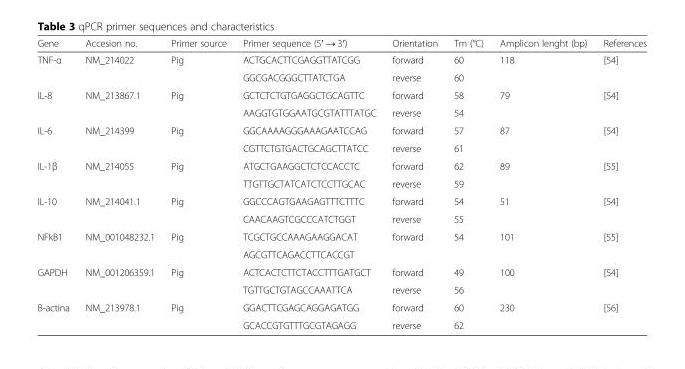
<table><thead><tr><td>Gene</td><td>Accesion no.</td><td>Primer source</td><td>Primer sequence (5′ → 3′)</td><td>Orientation</td><td>Tm (°C)</td><td>Amplicon lenght (bp)</td><td>References</td></tr></thead><tbody><tr><td rowspan="2">TNF-α</td><td rowspan="2">NM_214022</td><td rowspan="2">Pig</td><td>ACTGCACTTCGAGGTTATCGG</td><td>forward</td><td>60</td><td rowspan="2">118</td><td rowspan="2">[54]</td></tr><tr><td>GGCGACGGGCTTATCTGA</td><td>reverse</td><td>60</td></tr><tr><td rowspan="2">IL-8</td><td rowspan="2">NM_213867.1</td><td rowspan="2">Pig</td><td>GCTCTCTGTGAGGCTGCAGTTC</td><td>forward</td><td>58</td><td rowspan="2">79</td><td rowspan="2">[54]</td></tr><tr><td>AAGGTGTGGAATGCGTATTTATGC</td><td>reverse</td><td>54</td></tr><tr><td rowspan="2">IL-6</td><td rowspan="2">NM_214399</td><td rowspan="2">Pig</td><td>GGCAAAAGGGAAAGAATCCAG</td><td>forward</td><td>57</td><td rowspan="2">87</td><td rowspan="2">[54]</td></tr><tr><td>CGTTCTGTGACTGCAGCTTATCC</td><td>reverse</td><td>61</td></tr><tr><td rowspan="2">IL-1β</td><td rowspan="2">NM_214055</td><td rowspan="2">Pig</td><td>ATGCTGAAGGCTCTCCACCTC</td><td>forward</td><td>62</td><td rowspan="2">89</td><td rowspan="2">[55]</td></tr><tr><td>TTGTTGCTATCATCTCCTTGCAC</td><td>reverse</td><td>59</td></tr><tr><td rowspan="2">IL-10</td><td rowspan="2">NM_214041.1</td><td rowspan="2">Pig</td><td>GGCCCAGTGAAGAGTTTCTTTC</td><td>forward</td><td>54</td><td rowspan="2">51</td><td rowspan="2">[54]</td></tr><tr><td>CAACAAGTCGCCCATCTGGT</td><td>reverse</td><td>55</td></tr><tr><td rowspan="2">NFkB1</td><td rowspan="2">NM_001048232.1</td><td rowspan="2">Pig</td><td>TCGCTGCCAAAGAAGGACAT</td><td>forward</td><td>54</td><td rowspan="2">101</td><td rowspan="2">[55]</td></tr><tr><td>AGCGTTCAGACCTTCACCGT</td><td></td><td></td></tr><tr><td rowspan="2">GAPDH</td><td rowspan="2">NM_001206359.1</td><td rowspan="2">Pig</td><td>ACTCACTCTTCTACCTTTGATGCT</td><td>forward</td><td>49</td><td rowspan="2">100</td><td rowspan="2">[54]</td></tr><tr><td>TGTTGCTGTAGCCAAATTCA</td><td>reverse</td><td>56</td></tr><tr><td rowspan="2">B-actina</td><td rowspan="2">NM_213978.1</td><td rowspan="2">Pig</td><td>GGACTTCGAGCAGGAGATGG</td><td>forward</td><td>60</td><td rowspan="2">230</td><td rowspan="2">[56]</td></tr><tr><td>GCACCGTGTTTGCGTAGAGG</td><td>reverse</td><td>62</td></tr></tbody></table>